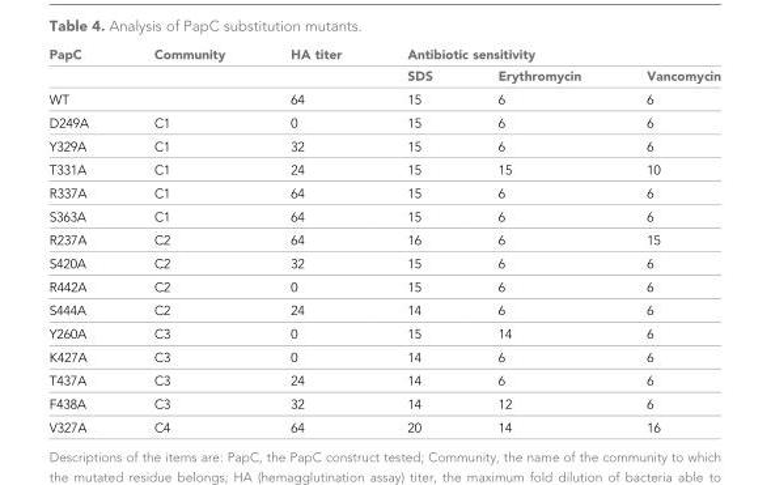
<table><thead><tr><td rowspan="2">PapC</td><td rowspan="2">Community</td><td rowspan="2">HA titer</td><td colspan="3">Antibiotic sensitivity</td></tr><tr><td>SDS</td><td>Erythromycin</td><td>Vancomycin</td></tr></thead><tbody><tr><td>WT</td><td></td><td>64</td><td>15</td><td>6</td><td>6</td></tr><tr><td>D249A</td><td>C1</td><td>0</td><td>15</td><td>6</td><td>6</td></tr><tr><td>Y329A</td><td>C1</td><td>32</td><td>15</td><td>6</td><td>6</td></tr><tr><td>T331A</td><td>C1</td><td>24</td><td>15</td><td>15</td><td>10</td></tr><tr><td>R337A</td><td>C1</td><td>64</td><td>15</td><td>6</td><td>6</td></tr><tr><td>S363A</td><td>C1</td><td>64</td><td>15</td><td>6</td><td>6</td></tr><tr><td>R237A</td><td>C2</td><td>64</td><td>16</td><td>6</td><td>15</td></tr><tr><td>S420A</td><td>C2</td><td>32</td><td>15</td><td>6</td><td>6</td></tr><tr><td>R442A</td><td>C2</td><td>0</td><td>15</td><td>6</td><td>6</td></tr><tr><td>S444A</td><td>C2</td><td>24</td><td>14</td><td>6</td><td>6</td></tr><tr><td>Y260A</td><td>C3</td><td>0</td><td>15</td><td>14</td><td>6</td></tr><tr><td>K427A</td><td>C3</td><td>0</td><td>14</td><td>6</td><td>6</td></tr><tr><td>T437A</td><td>C3</td><td>24</td><td>14</td><td>6</td><td>6</td></tr><tr><td>F438A</td><td>C3</td><td>32</td><td>14</td><td>12</td><td>6</td></tr><tr><td>V327A</td><td>C4</td><td>64</td><td>20</td><td>14</td><td>16</td></tr></tbody></table>